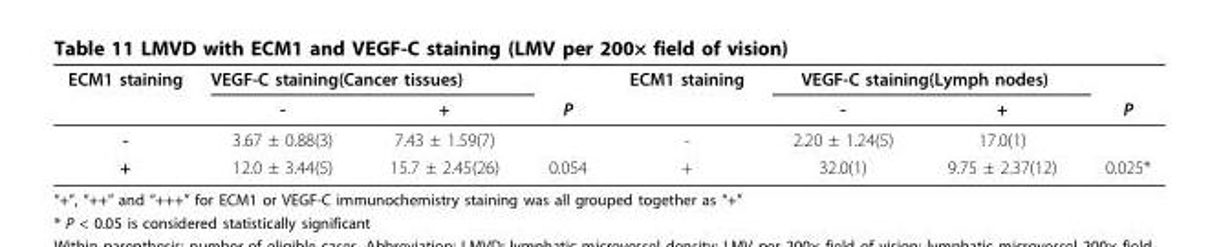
<table><thead><tr><td rowspan="2">ECM1 staining</td><td colspan="2">VEGF-C staining(Cancer tissues)</td><td rowspan="2">P</td><td rowspan="2">ECM1 staining</td><td colspan="2">VEGF-C staining(Lymph nodes)</td><td rowspan="2">P</td></tr><tr><td>-</td><td>+</td><td>-</td><td>+</td></tr></thead><tbody><tr><td>-</td><td>3.67 ± 0.88(3)</td><td>7.43 ± 1.59(7)</td><td></td><td>-</td><td>2.20 ± 1.24(5)</td><td>17.0(1)</td><td></td></tr><tr><td>+</td><td>12.0 ± 3.44(5)</td><td>15.7 ± 2.45(26)</td><td>0.054</td><td>+</td><td>32.0(1)</td><td>9.75 ± 2.37(12)</td><td>0.025*</td></tr></tbody></table>